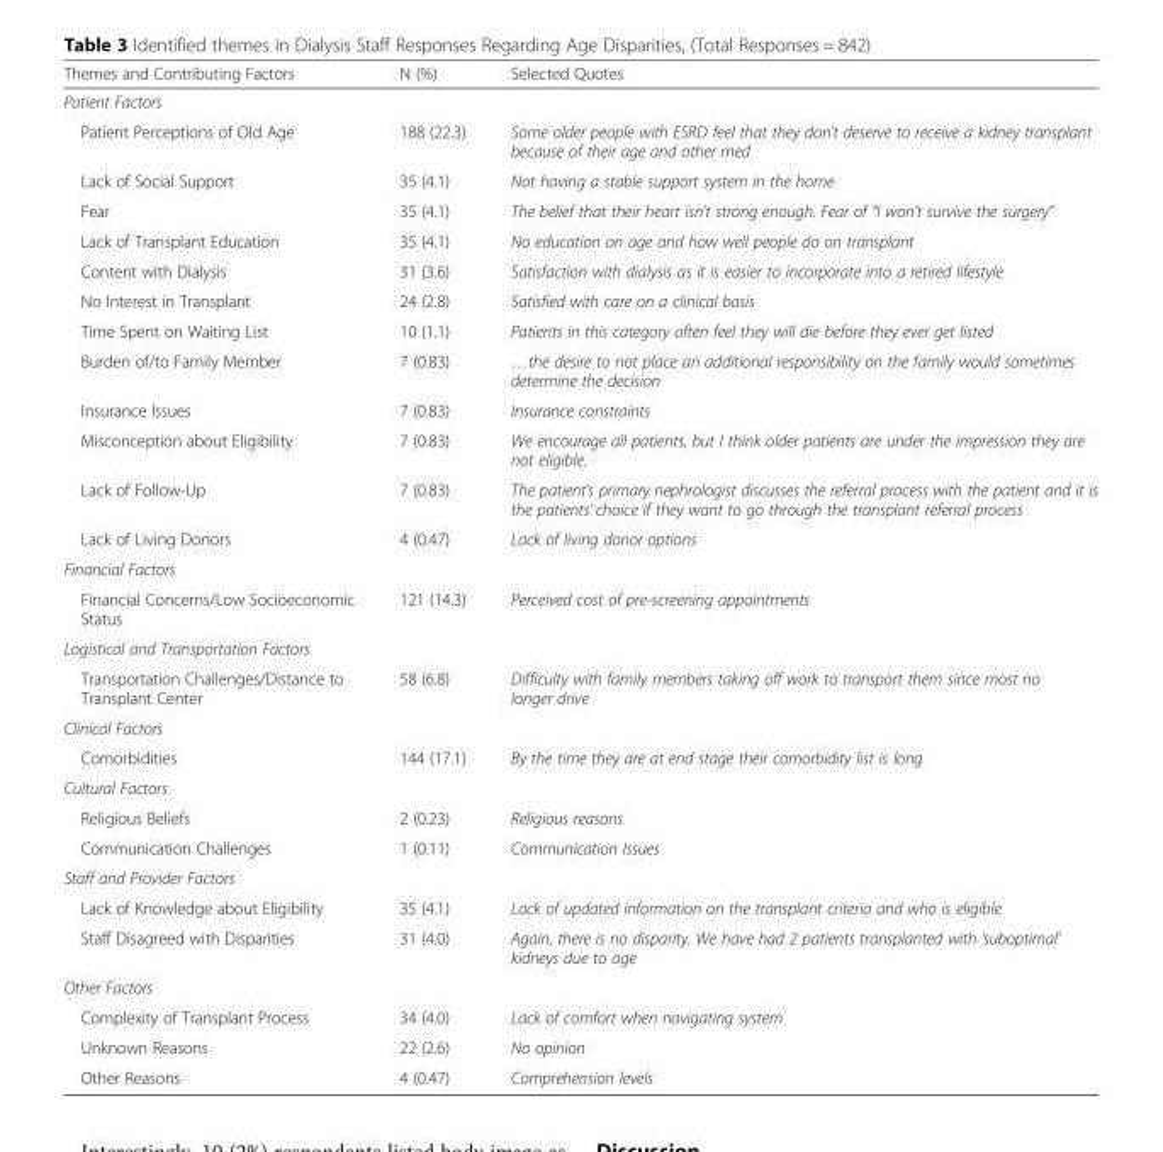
<table><thead><tr><td>Themes and Contributing Factors</td><td>N (%)</td><td>Selected Quotes</td></tr></thead><tbody><tr><td colspan="3">Patient Factors</td></tr><tr><td>Patient Perceptions of Old Age</td><td>188 (22.3)</td><td>Some older people with ESRD feel that they don’t deserve to receive a kidney transplant because of their age and other med</td></tr><tr><td>Lack of Social Support</td><td>35 (4.1)</td><td>Not having a stable support system in the home</td></tr><tr><td>Fear</td><td>35 (4.1)</td><td>The belief that their heart isn’t strong enough. Fear of “I won’t survive the surgery”</td></tr><tr><td>Lack of Transplant Education</td><td>35 (4.1)</td><td>No education on age and how well people do on transplant</td></tr><tr><td>Content with Dialysis</td><td>31 (3.6)</td><td>Satisfaction with dialysis as it is easier to incorporate into a retired lifestyle</td></tr><tr><td>No Interest in Transplant</td><td>24 (2.8)</td><td>Satisfied with care on a clinical basis</td></tr><tr><td>Time Spent on Waiting List</td><td>10 (1.1)</td><td>Patients in this category often feel they will die before they ever get listed</td></tr><tr><td>Burden of/to Family Member</td><td>7 (0.83)</td><td>…the desire to not place an additional responsibility on the family would sometimes determine the decision</td></tr><tr><td>Insurance Issues</td><td>7 (0.83)</td><td>Insurance constraints</td></tr><tr><td>Misconception about Eligibility</td><td>7 (0.83)</td><td>We encourage all patients, but I think older patients are under the impression they are not eligible.</td></tr><tr><td>Lack of Follow-Up</td><td>7 (0.83)</td><td>The patient’s primary nephrologist discusses the referral process with the patient and it is the patients’ choice if they want to go through the transplant referral process</td></tr><tr><td>Lack of Living Donors</td><td>4 (0.47)</td><td>Lack of living donor options</td></tr><tr><td colspan="3">Financial Factors</td></tr><tr><td>Financial Concerns/Low Socioeconomic Status</td><td>121 (14.3)</td><td>Perceived cost of pre-screening appointments</td></tr><tr><td colspan="3">Logistical and Transportation Factors</td></tr><tr><td>Transportation Challenges/Distance to Transplant Center</td><td>58 (6.8)</td><td>Difficulty with family members taking off work to transport them since most no longer drive</td></tr><tr><td colspan="3">Clinical Factors</td></tr><tr><td>Comorbidities</td><td>144 (17.1)</td><td>By the time they are at end stage their comorbidity list is long</td></tr><tr><td colspan="3">Cultural Factors</td></tr><tr><td>Religious Beliefs</td><td>2 (0.23)</td><td>Religious reasons</td></tr><tr><td>Communication Challenges</td><td>1 (0.11)</td><td>Communication Issues</td></tr><tr><td colspan="3">Staff and Provider Factors</td></tr><tr><td>Lack of Knowledge about Eligibility</td><td>35 (4.1)</td><td>Lack of updated information on the transplant criteria and who is eligible</td></tr><tr><td>Staff Disagreed with Disparities</td><td>31 (4.0)</td><td>Again, there is no disparity. We have had 2 patients transplanted with ‘suboptimal’ kidneys due to age</td></tr><tr><td colspan="3">Other Factors</td></tr><tr><td>Complexity of Transplant Process</td><td>34 (4.0)</td><td>Lack of comfort when navigating system</td></tr><tr><td>Unknown Reasons</td><td>22 (2.6)</td><td>No opinion</td></tr><tr><td>Other Reasons</td><td>4 (0.47)</td><td>Comprehension levels</td></tr></tbody></table>